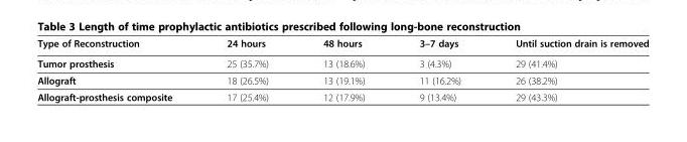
<table><thead><tr><td>Type of Reconstruction</td><td>24 hours</td><td>48 hours</td><td>3–7 days</td><td>Until suction drain is removed</td></tr></thead><tbody><tr><td>Tumor prosthesis</td><td>25 (35.7%)</td><td>13 (18.6%)</td><td>3 (4.3%)</td><td>29 (41.4%)</td></tr><tr><td>Allograft</td><td>18 (26.5%)</td><td>13 (19.1%)</td><td>11 (16.2%)</td><td>26 (38.2%)</td></tr><tr><td>Allograft-prosthesis composite</td><td>17 (25.4%)</td><td>12 (17.9%)</td><td>9 (13.4%)</td><td>29 (43.3%)</td></tr></tbody></table>